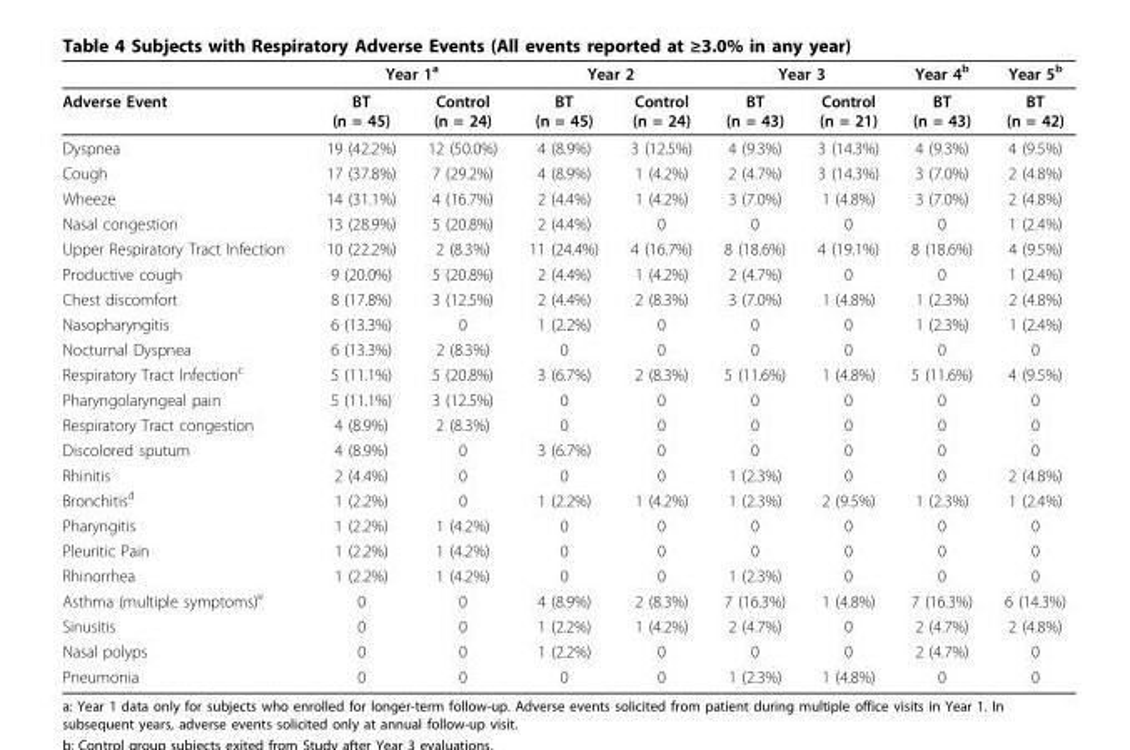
<table><thead><tr><td rowspan="2">Adverse Event</td><td colspan="2">Year 1a</td><td colspan="2">Year 2</td><td colspan="2">Year 3</td><td rowspan="2">Year 4b BT (n = 43)</td><td rowspan="2">Year 5b BT (n = 42)</td></tr><tr><td>BT (n = 45)</td><td>Control (n = 24)</td><td>BT (n = 45)</td><td>Control (n = 24)</td><td>BT (n = 43)</td><td>Control (n = 21)</td></tr></thead><tbody><tr><td>Dyspnea</td><td>19 (42.2%)</td><td>12 (50.0%)</td><td>4 (8.9%)</td><td>3 (12.5%)</td><td>4 (9.3%)</td><td>3 (14.3%)</td><td>4 (9.3%)</td><td>4 (9.5%)</td></tr><tr><td>Cough</td><td>17 (37.8%)</td><td>7 (29.2%)</td><td>4 (8.9%)</td><td>1 (4.2%)</td><td>2 (4.7%)</td><td>3 (14.3%)</td><td>3 (7.0%)</td><td>2 (4.8%)</td></tr><tr><td>Wheeze</td><td>14 (31.1%)</td><td>4 (16.7%)</td><td>2 (4.4%)</td><td>1 (4.2%)</td><td>3 (7.0%)</td><td>1 (4.8%)</td><td>3 (7.0%)</td><td>2 (4.8%)</td></tr><tr><td>Nasal congestion</td><td>13 (28.9%)</td><td>5 (20.8%)</td><td>2 (4.4%)</td><td>0</td><td>0</td><td>0</td><td>0</td><td>1 (2.4%)</td></tr><tr><td>Upper Respiratory Tract Infection</td><td>10 (22.2%)</td><td>2 (8.3%)</td><td>11 (24.4%)</td><td>4 (16.7%)</td><td>8 (18.6%)</td><td>4 (19.1%)</td><td>8 (18.6%)</td><td>4 (9.5%)</td></tr><tr><td>Productive cough</td><td>9 (20.0%)</td><td>5 (20.8%)</td><td>2 (4.4%)</td><td>1 (4.2%)</td><td>2 (4.7%)</td><td>0</td><td>0</td><td>1 (2.4%)</td></tr><tr><td>Chest discomfort</td><td>8 (17.8%)</td><td>3 (12.5%)</td><td>2 (4.4%)</td><td>2 (8.3%)</td><td>3 (7.0%)</td><td>1 (4.8%)</td><td>1 (2.3%)</td><td>2 (4.8%)</td></tr><tr><td>Nasopharyngitis</td><td>6 (13.3%)</td><td>0</td><td>1 (2.2%)</td><td>0</td><td>0</td><td>0</td><td>1 (2.3%)</td><td>1 (2.4%)</td></tr><tr><td>Nocturnal Dyspnea</td><td>6 (13.3%)</td><td>2 (8.3%)</td><td>0</td><td>0</td><td>0</td><td>0</td><td>0</td><td>0</td></tr><tr><td>Respiratory Tract Infection<sup>c</sup></td><td>5 (11.1%)</td><td>5 (20.8%)</td><td>3 (6.7%)</td><td>2 (8.3%)</td><td>5 (11.6%)</td><td>1 (4.8%)</td><td>5 (11.6%)</td><td>4 (9.5%)</td></tr><tr><td>Pharyngolaryngeal pain</td><td>5 (11.1%)</td><td>3 (12.5%)</td><td>0</td><td>0</td><td>0</td><td>0</td><td>0</td><td>0</td></tr><tr><td>Respiratory Tract congestion</td><td>4 (8.9%)</td><td>2 (8.3%)</td><td>0</td><td>0</td><td>0</td><td>0</td><td>0</td><td>0</td></tr><tr><td>Discolored sputum</td><td>4 (8.9%)</td><td>0</td><td>3 (6.7%)</td><td>0</td><td>0</td><td>0</td><td>0</td><td>0</td></tr><tr><td>Rhinitis</td><td>2 (4.4%)</td><td>0</td><td>0</td><td>0</td><td>1 (2.3%)</td><td>0</td><td>0</td><td>2 (4.8%)</td></tr><tr><td>Bronchitis<sup>d</sup></td><td>1 (2.2%)</td><td>0</td><td>1 (2.2%)</td><td>1 (4.2%)</td><td>1 (2.3%)</td><td>2 (9.5%)</td><td>1 (2.3%)</td><td>1 (2.4%)</td></tr><tr><td>Pharyngitis</td><td>1 (2.2%)</td><td>1 (4.2%)</td><td>0</td><td>0</td><td>0</td><td>0</td><td>0</td><td>0</td></tr><tr><td>Pleuritic Pain</td><td>1 (2.2%)</td><td>1 (4.2%)</td><td>0</td><td>0</td><td>0</td><td>0</td><td>0</td><td>0</td></tr><tr><td>Rhinorrhea</td><td>1 (2.2%)</td><td>1 (4.2%)</td><td>0</td><td>0</td><td>1 (2.3%)</td><td>0</td><td>0</td><td>0</td></tr><tr><td>Asthma (multiple symptoms)<sup>e</sup></td><td>0</td><td>0</td><td>4 (8.9%)</td><td>2 (8.3%)</td><td>7 (16.3%)</td><td>1 (4.8%)</td><td>7 (16.3%)</td><td>6 (14.3%)</td></tr><tr><td>Sinusitis</td><td>0</td><td>0</td><td>1 (2.2%)</td><td>1 (4.2%)</td><td>2 (4.7%)</td><td>0</td><td>2 (4.7%)</td><td>2 (4.8%)</td></tr><tr><td>Nasal polyps</td><td>0</td><td>0</td><td>1 (2.2%)</td><td>0</td><td>0</td><td>0</td><td>2 (4.7%)</td><td>0</td></tr><tr><td>Pneumonia</td><td>0</td><td>0</td><td>0</td><td>0</td><td>1 (2.3%)</td><td>1 (4.8%)</td><td>0</td><td>0</td></tr></tbody></table>